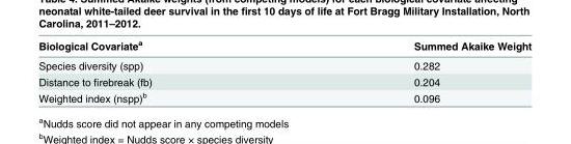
<table><thead><tr><td>Biological Covariate<sup>a</sup></td><td>Summed Akaike Weight</td></tr></thead><tbody><tr><td>Species diversity (spp)</td><td>0.282</td></tr><tr><td>Distance to firebreak (fb)</td><td>0.204</td></tr><tr><td>Weighted index (nspp)<sup>b</sup></td><td>0.096</td></tr></tbody></table>